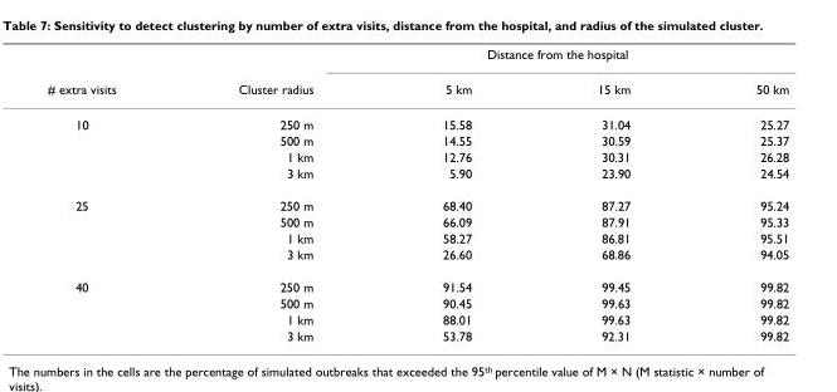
<table><thead><tr><td rowspan="2"># extra visits</td><td rowspan="2">Cluster radius</td><td colspan="3">Distance from the hospital</td></tr><tr><td>5 km</td><td>15 km</td><td>50 km</td></tr></thead><tbody><tr><td rowspan="4">10</td><td>250 m</td><td>15.58</td><td>31.04</td><td>25.27</td></tr><tr><td>500 m</td><td>14.55</td><td>30.59</td><td>25.37</td></tr><tr><td>1 km</td><td>12.76</td><td>30.31</td><td>26.28</td></tr><tr><td>3 km</td><td>5.90</td><td>23.90</td><td>24.54</td></tr><tr><td rowspan="4">25</td><td>250 m</td><td>68.40</td><td>87.27</td><td>95.24</td></tr><tr><td>500 m</td><td>66.09</td><td>87.91</td><td>95.33</td></tr><tr><td>1 km</td><td>58.27</td><td>86.81</td><td>95.51</td></tr><tr><td>3 km</td><td>26.60</td><td>68.86</td><td>94.05</td></tr><tr><td rowspan="4">40</td><td>250 m</td><td>91.54</td><td>99.45</td><td>99.82</td></tr><tr><td>500 m</td><td>90.45</td><td>99.63</td><td>99.82</td></tr><tr><td>1 km</td><td>88.01</td><td>99.63</td><td>99.82</td></tr><tr><td>3 km</td><td>53.78</td><td>92.31</td><td>99.82</td></tr></tbody></table>